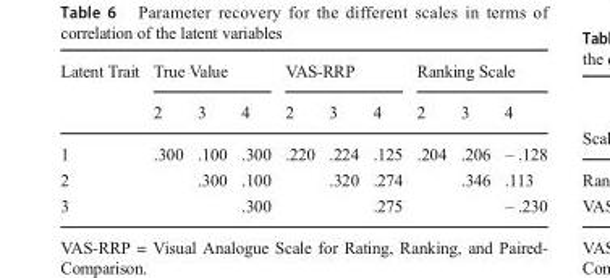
<table><thead><tr><td rowspan="2">Latent Trait</td><td colspan="3">True Value</td><td colspan="3">VAS-RRP</td><td colspan="3">Ranking Scale</td></tr><tr><td>2</td><td>3</td><td>4</td><td>2</td><td>3</td><td>4</td><td>2</td><td>3</td><td>4</td></tr></thead><tbody><tr><td>1</td><td>.300</td><td>.100</td><td>.300</td><td>.220</td><td>.224</td><td>.125</td><td>.204</td><td>.206</td><td>– .128</td></tr><tr><td>2</td><td></td><td>.300</td><td>.100</td><td></td><td>.320</td><td>.274</td><td></td><td>.346</td><td>.113</td></tr><tr><td>3</td><td></td><td></td><td>.300</td><td></td><td></td><td>.275</td><td></td><td></td><td>– .230</td></tr></tbody></table>